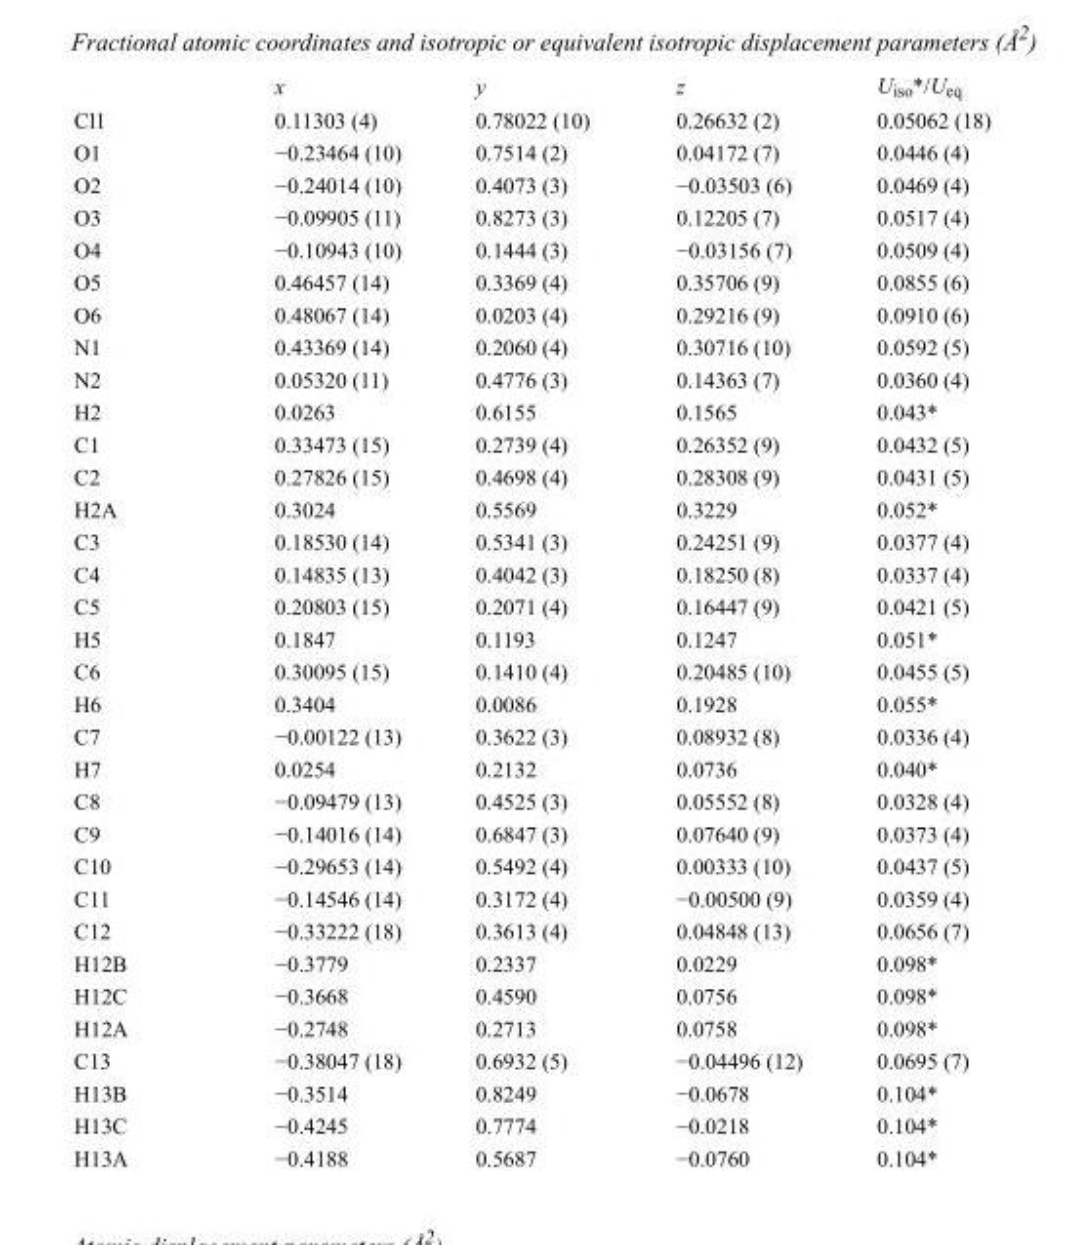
<table><thead><tr><td></td><td>x</td><td>y</td><td>z</td><td>U<sub>iso</sub>*/U<sub>eq</sub></td></tr></thead><tbody><tr><td>Cl1</td><td>0.11303 (4)</td><td>0.78022 (10)</td><td>0.26632 (2)</td><td>0.05062 (18)</td></tr><tr><td>O1</td><td>−0.23464 (10)</td><td>0.7514 (2)</td><td>0.04172 (7)</td><td>0.0446 (4)</td></tr><tr><td>O2</td><td>−0.24014 (10)</td><td>0.4073 (3)</td><td>−0.03503 (6)</td><td>0.0469 (4)</td></tr><tr><td>O3</td><td>−0.09905 (11)</td><td>0.8273 (3)</td><td>0.12205 (7)</td><td>0.0517 (4)</td></tr><tr><td>O4</td><td>−0.10943 (10)</td><td>0.1444 (3)</td><td>−0.03156 (7)</td><td>0.0509 (4)</td></tr><tr><td>O5</td><td>0.46457 (14)</td><td>0.3369 (4)</td><td>0.35706 (9)</td><td>0.0855 (6)</td></tr><tr><td>O6</td><td>0.48067 (14)</td><td>0.0203 (4)</td><td>0.29216 (9)</td><td>0.0910 (6)</td></tr><tr><td>N1</td><td>0.43369 (14)</td><td>0.2060 (4)</td><td>0.30716 (10)</td><td>0.0592 (5)</td></tr><tr><td>N2</td><td>0.05320 (11)</td><td>0.4776 (3)</td><td>0.14363 (7)</td><td>0.0360 (4)</td></tr><tr><td>H2</td><td>0.0263</td><td>0.6155</td><td>0.1565</td><td>0.043*</td></tr><tr><td>C1</td><td>0.33473 (15)</td><td>0.2739 (4)</td><td>0.26352 (9)</td><td>0.0432 (5)</td></tr><tr><td>C2</td><td>0.27826 (15)</td><td>0.4698 (4)</td><td>0.28308 (9)</td><td>0.0431 (5)</td></tr><tr><td>H2A</td><td>0.3024</td><td>0.5569</td><td>0.3229</td><td>0.052*</td></tr><tr><td>C3</td><td>0.18530 (14)</td><td>0.5341 (3)</td><td>0.24251 (9)</td><td>0.0377 (4)</td></tr><tr><td>C4</td><td>0.14835 (13)</td><td>0.4042 (3)</td><td>0.18250 (8)</td><td>0.0337 (4)</td></tr><tr><td>C5</td><td>0.20803 (15)</td><td>0.2071 (4)</td><td>0.16447 (9)</td><td>0.0421 (5)</td></tr><tr><td>H5</td><td>0.1847</td><td>0.1193</td><td>0.1247</td><td>0.051*</td></tr><tr><td>C6</td><td>0.30095 (15)</td><td>0.1410 (4)</td><td>0.20485 (10)</td><td>0.0455 (5)</td></tr><tr><td>H6</td><td>0.3404</td><td>0.0086</td><td>0.1928</td><td>0.055*</td></tr><tr><td>C7</td><td>−0.00122 (13)</td><td>0.3622 (3)</td><td>0.08932 (8)</td><td>0.0336 (4)</td></tr><tr><td>H7</td><td>0.0254</td><td>0.2132</td><td>0.0736</td><td>0.040*</td></tr><tr><td>C8</td><td>−0.09479 (13)</td><td>0.4525 (3)</td><td>0.05552 (8)</td><td>0.0328 (4)</td></tr><tr><td>C9</td><td>−0.14016 (14)</td><td>0.6847 (3)</td><td>0.07640 (9)</td><td>0.0373 (4)</td></tr><tr><td>C10</td><td>−0.29653 (14)</td><td>0.5492 (4)</td><td>0.00333 (10)</td><td>0.0437 (5)</td></tr><tr><td>C11</td><td>−0.14546 (14)</td><td>0.3172 (4)</td><td>−0.00500 (9)</td><td>0.0359 (4)</td></tr><tr><td>C12</td><td>−0.33222 (18)</td><td>0.3613 (4)</td><td>0.04848 (13)</td><td>0.0656 (7)</td></tr><tr><td>H12B</td><td>−0.3779</td><td>0.2337</td><td>0.0229</td><td>0.098*</td></tr><tr><td>H12C</td><td>−0.3668</td><td>0.4590</td><td>0.0756</td><td>0.098*</td></tr><tr><td>H12A</td><td>−0.2748</td><td>0.2713</td><td>0.0758</td><td>0.098*</td></tr><tr><td>C13</td><td>−0.38047 (18)</td><td>0.6932 (5)</td><td>−0.04496 (12)</td><td>0.0695 (7)</td></tr><tr><td>H13B</td><td>−0.3514</td><td>0.8249</td><td>−0.0678</td><td>0.104*</td></tr><tr><td>H13C</td><td>−0.4245</td><td>0.7774</td><td>−0.0218</td><td>0.104*</td></tr><tr><td>H13A</td><td>−0.4188</td><td>0.5687</td><td>−0.0760</td><td>0.104*</td></tr></tbody></table>